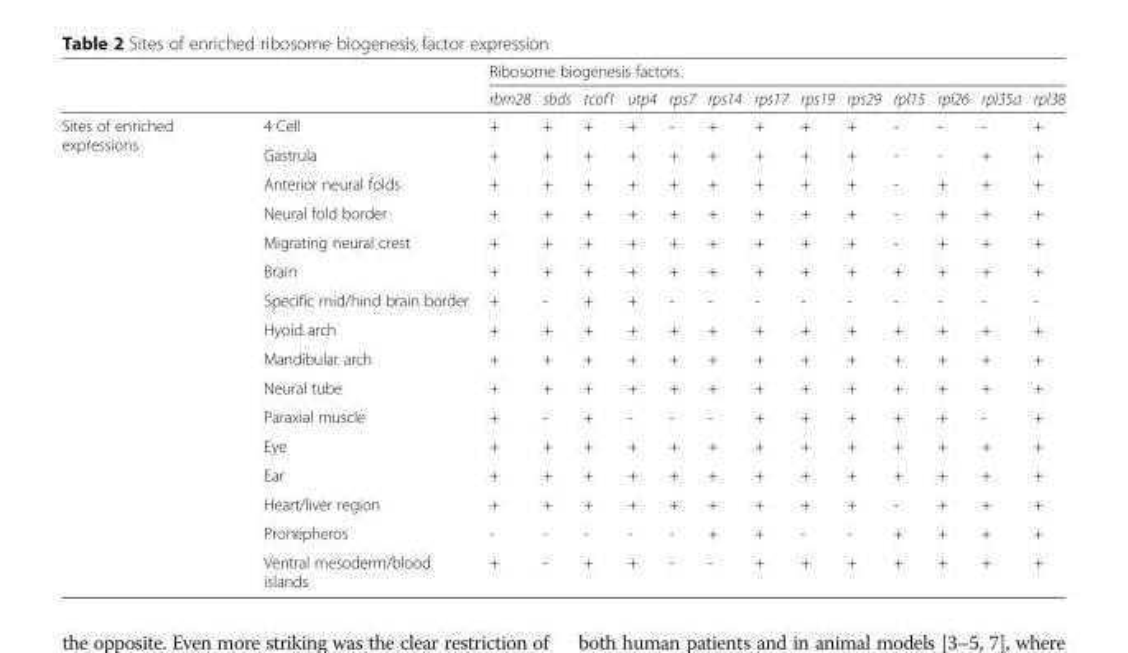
<table><thead><tr><td rowspan="2"></td><td rowspan="2"></td><td colspan="13">Ribosome biogenesis factors</td></tr><tr><td>rbm28</td><td>sbds</td><td>tcof1</td><td>utp4</td><td>rps7</td><td>rps14</td><td>rps17</td><td>rps19</td><td>rps29</td><td>rpl15</td><td>rpl26</td><td>rpl35a</td><td>rpl38</td></tr></thead><tbody><tr><td rowspan="16">Sites of enriched expressions</td><td>4 Cell</td><td>+</td><td>+</td><td>+</td><td>+</td><td>-</td><td>+</td><td>+</td><td>+</td><td>+</td><td>-</td><td>-</td><td>-</td><td>+</td></tr><tr><td>Gastrula</td><td>+</td><td>+</td><td>+</td><td>+</td><td>+</td><td>+</td><td>+</td><td>+</td><td>+</td><td>-</td><td>-</td><td>+</td><td>+</td></tr><tr><td>Anterior neural folds</td><td>+</td><td>+</td><td>+</td><td>+</td><td>+</td><td>+</td><td>+</td><td>+</td><td>+</td><td>-</td><td>+</td><td>+</td><td>+</td></tr><tr><td>Neural fold border</td><td>+</td><td>+</td><td>+</td><td>+</td><td>+</td><td>+</td><td>+</td><td>+</td><td>+</td><td>-</td><td>+</td><td>+</td><td>+</td></tr><tr><td>Migrating neural crest</td><td>+</td><td>+</td><td>+</td><td>+</td><td>+</td><td>+</td><td>+</td><td>+</td><td>+</td><td>-</td><td>+</td><td>+</td><td>+</td></tr><tr><td>Brain</td><td>+</td><td>+</td><td>+</td><td>+</td><td>+</td><td>+</td><td>+</td><td>+</td><td>+</td><td>+</td><td>+</td><td>+</td><td>+</td></tr><tr><td>Specific mid/hind brain border</td><td>+</td><td>-</td><td>+</td><td>+</td><td>-</td><td>-</td><td>-</td><td>-</td><td>-</td><td>-</td><td>-</td><td>-</td><td>-</td></tr><tr><td>Hyoid arch</td><td>+</td><td>+</td><td>+</td><td>+</td><td>+</td><td>+</td><td>+</td><td>+</td><td>+</td><td>+</td><td>+</td><td>+</td><td>+</td></tr><tr><td>Mandibular arch</td><td>+</td><td>+</td><td>+</td><td>+</td><td>+</td><td>+</td><td>+</td><td>+</td><td>+</td><td>+</td><td>+</td><td>+</td><td>+</td></tr><tr><td>Neural tube</td><td>+</td><td>+</td><td>+</td><td>+</td><td>+</td><td>+</td><td>+</td><td>+</td><td>+</td><td>+</td><td>+</td><td>+</td><td>+</td></tr><tr><td>Paraxial muscle</td><td>+</td><td>-</td><td>+</td><td>-</td><td>-</td><td>-</td><td>+</td><td>+</td><td>+</td><td>+</td><td>+</td><td>-</td><td>+</td></tr><tr><td>Eye</td><td>+</td><td>+</td><td>+</td><td>+</td><td>+</td><td>+</td><td>+</td><td>+</td><td>+</td><td>+</td><td>+</td><td>+</td><td>+</td></tr><tr><td>Ear</td><td>+</td><td>+</td><td>+</td><td>+</td><td>+</td><td>+</td><td>+</td><td>+</td><td>+</td><td>+</td><td>+</td><td>+</td><td>+</td></tr><tr><td>Heart/liver region</td><td>+</td><td>+</td><td>+</td><td>+</td><td>+</td><td>+</td><td>+</td><td>+</td><td>+</td><td>-</td><td>+</td><td>+</td><td>+</td></tr><tr><td>Pronepheros</td><td>-</td><td>-</td><td>-</td><td>-</td><td>-</td><td>+</td><td>+</td><td>-</td><td>-</td><td>+</td><td>+</td><td>+</td><td>+</td></tr><tr><td>Ventral mesoderm/blood islands</td><td>+</td><td>-</td><td>+</td><td>+</td><td>-</td><td>-</td><td>+</td><td>+</td><td>+</td><td>+</td><td>+</td><td>+</td><td>+</td></tr></tbody></table>